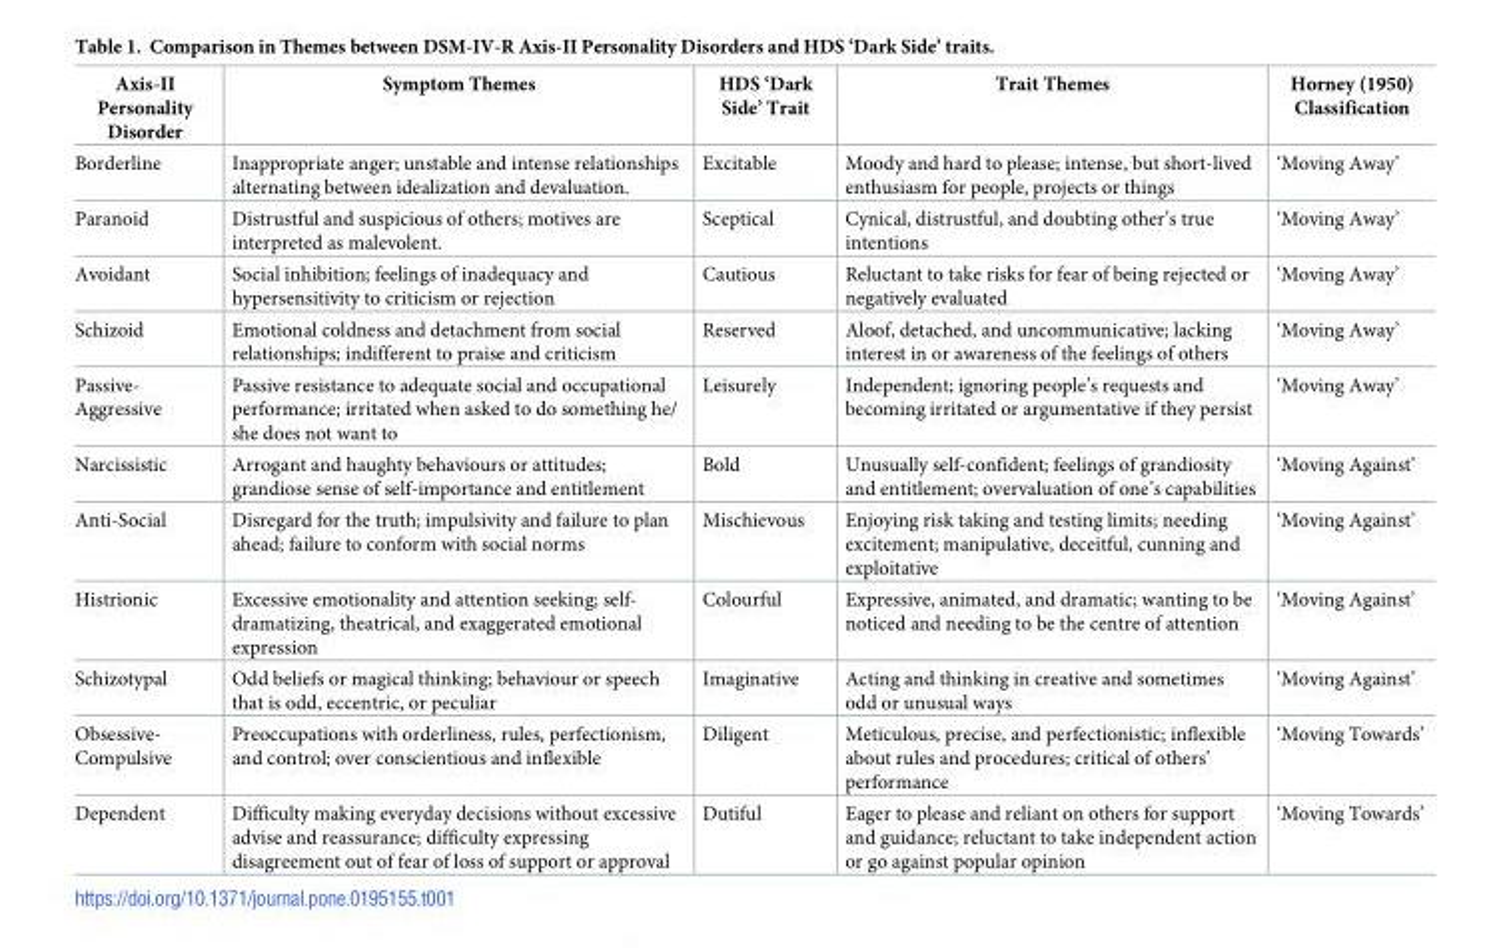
<table><thead><tr><td>Axis-II Personality Disorder</td><td>Symptom Themes</td><td>HDS ‘Dark Side’ Trait</td><td>Trait Themes</td><td>Horney (1950) Classification</td></tr></thead><tbody><tr><td>Borderline</td><td>Inappropriate anger; unstable and intense relationships alternating between idealization and devaluation.</td><td>Excitable</td><td>Moody and hard to please; intense, but short-lived enthusiasm for people, projects or things</td><td>‘Moving Away’</td></tr><tr><td>Paranoid</td><td>Distrustful and suspicious of others; motives are interpreted as malevolent.</td><td>Sceptical</td><td>Cynical, distrustful, and doubting other’s true intentions</td><td>‘Moving Away’</td></tr><tr><td>Avoidant</td><td>Social inhibition; feelings of inadequacy and hypersensitivity to criticism or rejection</td><td>Cautious</td><td>Reluctant to take risks for fear of being rejected or negatively evaluated</td><td>‘Moving Away’</td></tr><tr><td>Schizoid</td><td>Emotional coldness and detachment from social relationships; indifferent to praise and criticism</td><td>Reserved</td><td>Aloof, detached, and uncommunicative; lacking interest in or awareness of the feelings of others</td><td>‘Moving Away’</td></tr><tr><td>Passive- Aggressive</td><td>Passive resistance to adequate social and occupational performance; irritated when asked to do something he/ she does not want to</td><td>Leisurely</td><td>Independent; ignoring people’s requests and becoming irritated or argumentative if they persist</td><td>‘Moving Away’</td></tr><tr><td>Narcissistic</td><td>Arrogant and haughty behaviours or attitudes; grandiose sense of self-importance and entitlement</td><td>Bold</td><td>Unusually self-confident; feelings of grandiosity and entitlement; overvaluation of one’s capabilities</td><td>‘Moving Against’</td></tr><tr><td>Anti-Social</td><td>Disregard for the truth; impulsivity and failure to plan ahead; failure to conform with social norms</td><td>Mischievous</td><td>Enjoying risk taking and testing limits; needing excitement; manipulative, deceitful, cunning and exploitative</td><td>‘Moving Against’</td></tr><tr><td>Histrionic</td><td>Excessive emotionality and attention seeking; self- dramatizing, theatrical, and exaggerated emotional expression</td><td>Colourful</td><td>Expressive, animated, and dramatic; wanting to be noticed and needing to be the centre of attention</td><td>‘Moving Against’</td></tr><tr><td>Schizotypal</td><td>Odd beliefs or magical thinking; behaviour or speech that is odd, eccentric, or peculiar</td><td>Imaginative</td><td>Acting and thinking in creative and sometimes odd or unusual ways</td><td>‘Moving Against’</td></tr><tr><td>Obsessive- Compulsive</td><td>Preoccupations with orderliness, rules, perfectionism, and control; over conscientious and inflexible</td><td>Diligent</td><td>Meticulous, precise, and perfectionistic; inflexible about rules and procedures; critical of others’ performance</td><td>‘Moving Towards’</td></tr><tr><td>Dependent</td><td>Difficulty making everyday decisions without excessive advise and reassurance; difficulty expressing disagreement out of fear of loss of support or approval</td><td>Dutiful</td><td>Eager to please and reliant on others for support and guidance; reluctant to take independent action or go against popular opinion</td><td>‘Moving Towards’</td></tr></tbody></table>